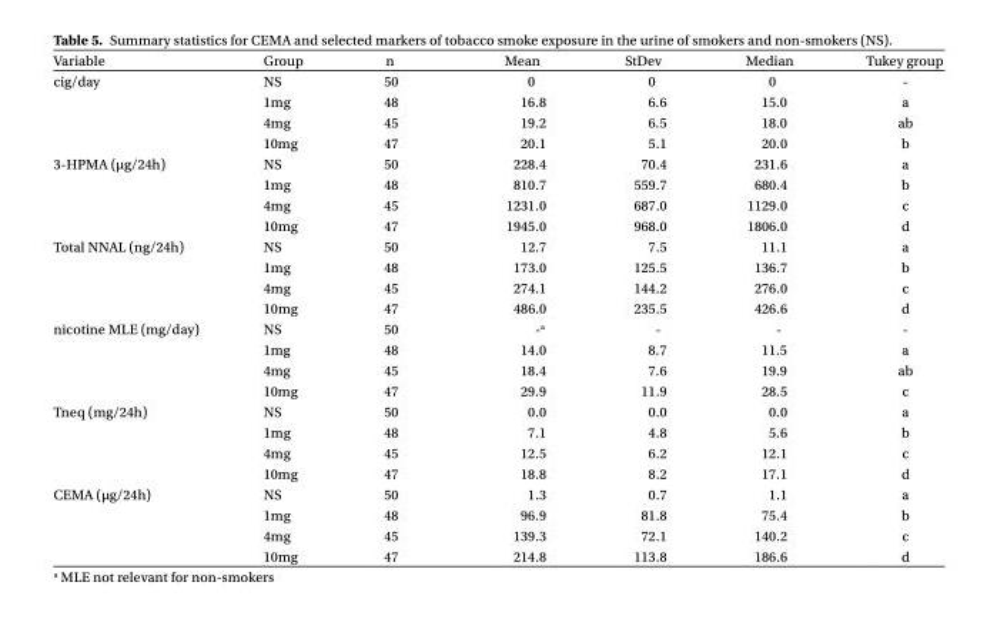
<table><thead><tr><td>Variable</td><td>Group</td><td>n</td><td>Mean</td><td>StDev</td><td>Median</td><td>Tukey group</td></tr></thead><tbody><tr><td rowspan="4">cig/day</td><td>NS</td><td>50</td><td>0</td><td>0</td><td>0</td><td>-</td></tr><tr><td>1mg</td><td>48</td><td>16.8</td><td>6.6</td><td>15.0</td><td>a</td></tr><tr><td>4mg</td><td>45</td><td>19.2</td><td>6.5</td><td>18.0</td><td>ab</td></tr><tr><td>10mg</td><td>47</td><td>20.1</td><td>5.1</td><td>20.0</td><td>b</td></tr><tr><td rowspan="4">3-HPMA (µg/24h)</td><td>NS</td><td>50</td><td>228.4</td><td>70.4</td><td>231.6</td><td>a</td></tr><tr><td>1mg</td><td>48</td><td>810.7</td><td>559.7</td><td>680.4</td><td>b</td></tr><tr><td>4mg</td><td>45</td><td>1231.0</td><td>687.0</td><td>1129.0</td><td>c</td></tr><tr><td>10mg</td><td>47</td><td>1945.0</td><td>968.0</td><td>1806.0</td><td>d</td></tr><tr><td rowspan="4">Total NNAL (ng/24h)</td><td>NS</td><td>50</td><td>12.7</td><td>7.5</td><td>11.1</td><td>a</td></tr><tr><td>1mg</td><td>48</td><td>173.0</td><td>125.5</td><td>136.7</td><td>b</td></tr><tr><td>4mg</td><td>45</td><td>274.1</td><td>144.2</td><td>276.0</td><td>c</td></tr><tr><td>10mg</td><td>47</td><td>486.0</td><td>235.5</td><td>426.6</td><td>d</td></tr><tr><td rowspan="4">nicotine MLE (mg/day)</td><td>NS</td><td>50</td><td>-a</td><td>-</td><td>-</td><td>-</td></tr><tr><td>1mg</td><td>48</td><td>14.0</td><td>8.7</td><td>11.5</td><td>a</td></tr><tr><td>4mg</td><td>45</td><td>18.4</td><td>7.6</td><td>19.9</td><td>ab</td></tr><tr><td>10mg</td><td>47</td><td>29.9</td><td>11.9</td><td>28.5</td><td>c</td></tr><tr><td rowspan="4">Tneq (mg/24h)</td><td>NS</td><td>50</td><td>0.0</td><td>0.0</td><td>0.0</td><td>a</td></tr><tr><td>1mg</td><td>48</td><td>7.1</td><td>4.8</td><td>5.6</td><td>b</td></tr><tr><td>4mg</td><td>45</td><td>12.5</td><td>6.2</td><td>12.1</td><td>c</td></tr><tr><td>10mg</td><td>47</td><td>18.8</td><td>8.2</td><td>17.1</td><td>d</td></tr><tr><td rowspan="4">CEMA (µg/24h)</td><td>NS</td><td>50</td><td>1.3</td><td>0.7</td><td>1.1</td><td>a</td></tr><tr><td>1mg</td><td>48</td><td>96.9</td><td>81.8</td><td>75.4</td><td>b</td></tr><tr><td>4mg</td><td>45</td><td>139.3</td><td>72.1</td><td>140.2</td><td>c</td></tr><tr><td>10mg</td><td>47</td><td>214.8</td><td>113.8</td><td>186.6</td><td>d</td></tr></tbody></table>